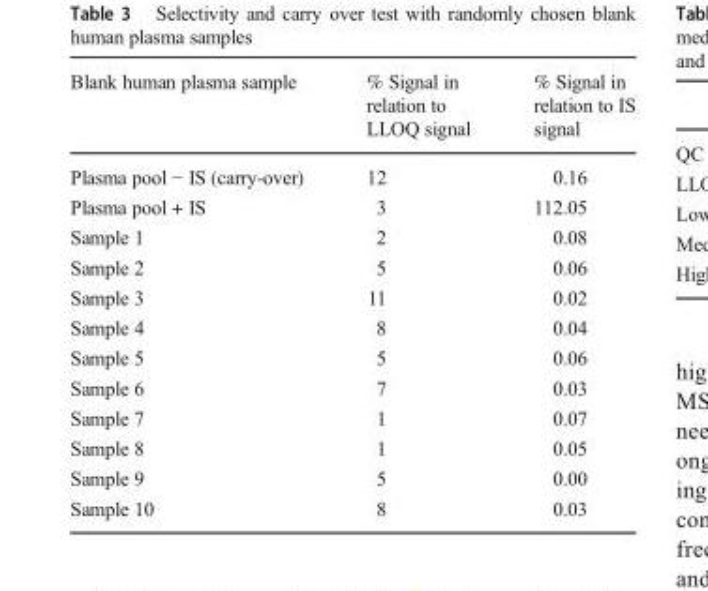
<table><thead><tr><td>Blank human plasma sample</td><td>% Signal in relation to LLOQ signal</td><td>% Signal in relation to IS signal</td></tr></thead><tbody><tr><td>Plasma pool − IS (carry-over)</td><td>12</td><td>0.16</td></tr><tr><td>Plasma pool + IS</td><td>3</td><td>112.05</td></tr><tr><td>Sample 1</td><td>2</td><td>0.08</td></tr><tr><td>Sample 2</td><td>5</td><td>0.06</td></tr><tr><td>Sample 3</td><td>11</td><td>0.02</td></tr><tr><td>Sample 4</td><td>8</td><td>0.04</td></tr><tr><td>Sample 5</td><td>5</td><td>0.06</td></tr><tr><td>Sample 6</td><td>7</td><td>0.03</td></tr><tr><td>Sample 7</td><td>1</td><td>0.07</td></tr><tr><td>Sample 8</td><td>1</td><td>0.05</td></tr><tr><td>Sample 9</td><td>5</td><td>0.00</td></tr><tr><td>Sample 10</td><td>8</td><td>0.03</td></tr></tbody></table>